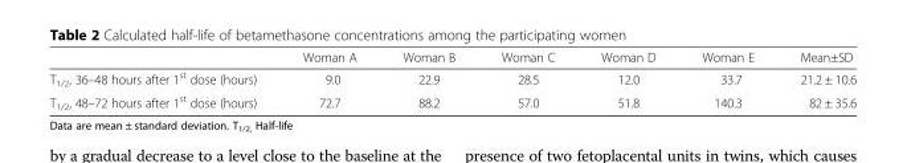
<table><thead><tr><td></td><td>Woman A</td><td>Woman B</td><td>Woman C</td><td>Woman D</td><td>Woman E</td><td>Mean±SD</td></tr></thead><tbody><tr><td>T<sub>1/2</sub>, 36–48 hours after 1<sup>st</sup> dose (hours)</td><td>9.0</td><td>22.9</td><td>28.5</td><td>12.0</td><td>33.7</td><td>21.2 ± 10.6</td></tr><tr><td>T<sub>1/2</sub>, 48–72 hours after 1<sup>st</sup> dose (hours)</td><td>72.7</td><td>88.2</td><td>57.0</td><td>51.8</td><td>140.3</td><td>82 ± 35.6</td></tr></tbody></table>